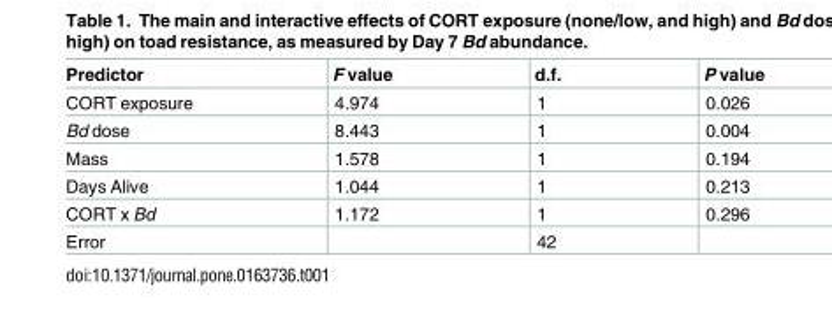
<table><thead><tr><td>Predictor</td><td>F value</td><td>d.f.</td><td>P value</td></tr></thead><tbody><tr><td>CORT exposure</td><td>4.974</td><td>1</td><td>0.026</td></tr><tr><td>Bd dose</td><td>8.443</td><td>1</td><td>0.004</td></tr><tr><td>Mass</td><td>1.578</td><td>1</td><td>0.194</td></tr><tr><td>Days Alive</td><td>1.044</td><td>1</td><td>0.213</td></tr><tr><td>CORT x Bd</td><td>1.172</td><td>1</td><td>0.296</td></tr><tr><td>Error</td><td></td><td>42</td><td></td></tr></tbody></table>